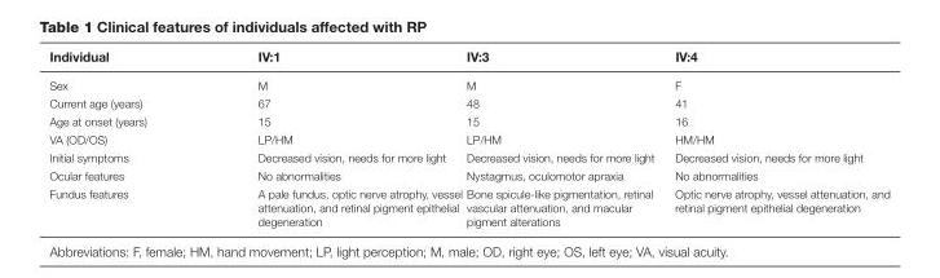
<table><thead><tr><td>Individual</td><td>IV:1</td><td>IV:3</td><td>IV:4</td></tr></thead><tbody><tr><td>Sex</td><td>M</td><td>M</td><td>F</td></tr><tr><td>Current age (years)</td><td>67</td><td>48</td><td>41</td></tr><tr><td>Age at onset (years)</td><td>15</td><td>15</td><td>16</td></tr><tr><td>VA (OD/OS)</td><td>LP/HM</td><td>LP/HM</td><td>HM/HM</td></tr><tr><td>Initial symptoms</td><td>Decreased vision, needs for more light</td><td>Decreased vision, needs for more light</td><td>Decreased vision, needs for more light</td></tr><tr><td>Ocular features</td><td>No abnormalities</td><td>Nystagmus, oculomotor apraxia</td><td>No abnormalities</td></tr><tr><td>Fundus features</td><td>A pale fundus, optic nerve atrophy, vessel attenuation, and retinal pigment epithelial degeneration</td><td>Bone spicule-like pigmentation, retinal vascular attenuation, and macular pigment alterations</td><td>Optic nerve atrophy, vessel attenuation, and retinal pigment epithelial degeneration</td></tr></tbody></table>